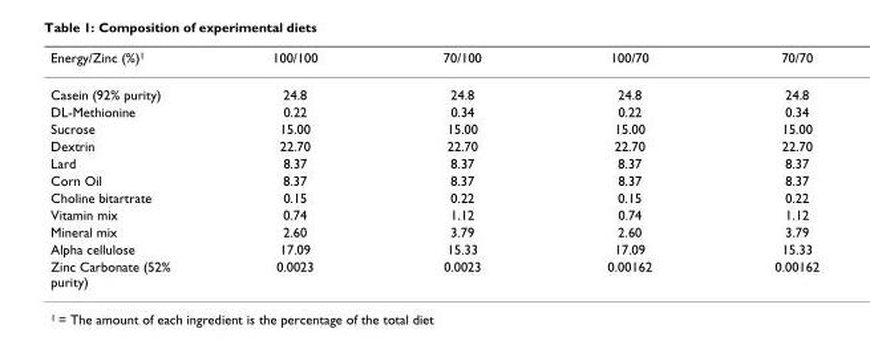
<table><thead><tr><td>Energy/Zinc (%)<sup>1</sup></td><td>100/100</td><td>70/100</td><td>100/70</td><td>70/70</td></tr></thead><tbody><tr><td>Casein (92% purity)</td><td>24.8</td><td>24.8</td><td>24.8</td><td>24.8</td></tr><tr><td>DL-Methionine</td><td>0.22</td><td>0.34</td><td>0.22</td><td>0.34</td></tr><tr><td>Sucrose</td><td>15.00</td><td>15.00</td><td>15.00</td><td>15.00</td></tr><tr><td>Dextrin</td><td>22.70</td><td>22.70</td><td>22.70</td><td>22.70</td></tr><tr><td>Lard</td><td>8.37</td><td>8.37</td><td>8.37</td><td>8.37</td></tr><tr><td>Corn Oil</td><td>8.37</td><td>8.37</td><td>8.37</td><td>8.37</td></tr><tr><td>Choline bitartrate</td><td>0.15</td><td>0.22</td><td>0.15</td><td>0.22</td></tr><tr><td>Vitamin mix</td><td>0.74</td><td>1.12</td><td>0.74</td><td>1.12</td></tr><tr><td>Mineral mix</td><td>2.60</td><td>3.79</td><td>2.60</td><td>3.79</td></tr><tr><td>Alpha cellulose</td><td>17.09</td><td>15.33</td><td>17.09</td><td>15.33</td></tr><tr><td>Zinc Carbonate (52% purity)</td><td>0.0023</td><td>0.0023</td><td>0.00162</td><td>0.00162</td></tr></tbody></table>